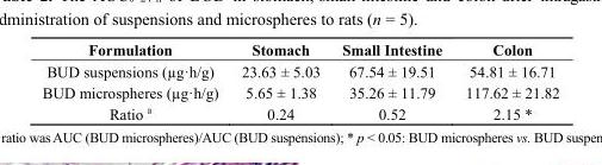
<table><thead><tr><td>Formulation</td><td>Stomach</td><td>Small Intestine</td><td>Colon</td></tr></thead><tbody><tr><td>BUD suspensions (µg·h/g)</td><td>23.63 ± 5.03</td><td>67.54 ± 19.51</td><td>54.81 ± 16.71</td></tr><tr><td>BUD microspheres (µg·h/g)</td><td>5.65 ± 1.38</td><td>35.26 ± 11.79</td><td>117.62 ± 21.82</td></tr><tr><td>Ratio <sup>a</sup></td><td>0.24</td><td>0.52</td><td>2.15 *</td></tr></tbody></table>